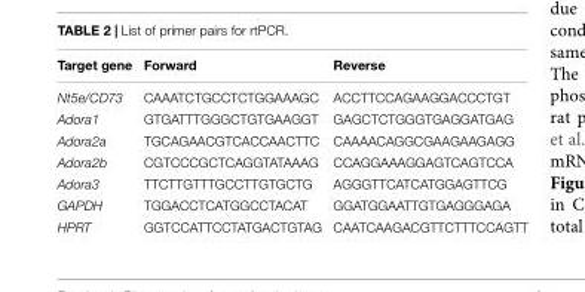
<table><thead><tr><td>Target gene</td><td>Forward</td><td>Reverse</td></tr></thead><tbody><tr><td>Nt5e/CD73</td><td>CAAATCTGCCTCTGGAAAGC</td><td>ACCTTCCAGAAGGACCCTGT</td></tr><tr><td>Adora1</td><td>GTGATTTGGGCTGTGAAGGT</td><td>GAGCTCTGGGTGAGGATGAG</td></tr><tr><td>Adora2a</td><td>TGCAGAACGTCACCAACTTC</td><td>CAAAACAGGCGAAGAAGAGG</td></tr><tr><td>Adora2b</td><td>CGTCCCGCTCAGGTATAAAG</td><td>CCAGGAAAGGAGTCAGTCCA</td></tr><tr><td>Adora3</td><td>TTCTTGTTTGCCTTGTGCTG</td><td>AGGGTTCATCATGGAGTTCG</td></tr><tr><td>GAPDH</td><td>TGGACCTCATGGCCTACAT</td><td>GGATGGAATTGTGAGGGAGA</td></tr><tr><td>HPRT</td><td>GGTCCATTCCTATGACTGTAG</td><td>CAATCAAGACGTTCTTTCCAGTT</td></tr></tbody></table>